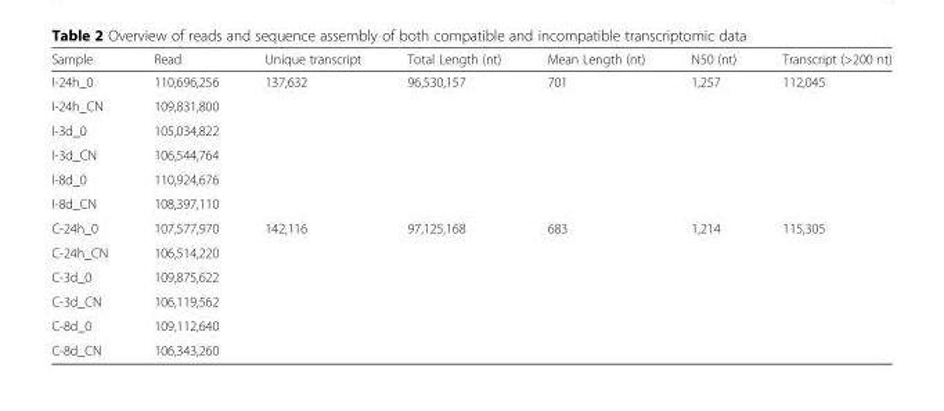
<table><thead><tr><td>Sample</td><td>Read</td><td>Unique transcript</td><td>Total Length (nt)</td><td>Mean Length (nt)</td><td>N50 (nt)</td><td>Transcript (&gt;200 nt)</td></tr></thead><tbody><tr><td>I-24h_0</td><td>110,696,256</td><td rowspan="6">137,632</td><td rowspan="6">96,530,157</td><td rowspan="6">701</td><td rowspan="6">1,257</td><td rowspan="6">112,045</td></tr><tr><td>I-24h_CN</td><td>109,831,800</td></tr><tr><td>I-3d_0</td><td>105,034,822</td></tr><tr><td>I-3d_CN</td><td>106,544,764</td></tr><tr><td>I-8d_0</td><td>110,924,676</td></tr><tr><td>I-8d_CN</td><td>108,397,110</td></tr><tr><td>C-24h_0</td><td>107,577,970</td><td rowspan="6">142,116</td><td rowspan="6">97,125,168</td><td rowspan="6">683</td><td rowspan="6">1,214</td><td rowspan="6">115,305</td></tr><tr><td>C-24h_CN</td><td>106,514,220</td></tr><tr><td>C-3d_0</td><td>109,875,622</td></tr><tr><td>C-3d_CN</td><td>106,119,562</td></tr><tr><td>C-8d_0</td><td>109,112,640</td></tr><tr><td>C-8d_CN</td><td>106,343,260</td></tr></tbody></table>